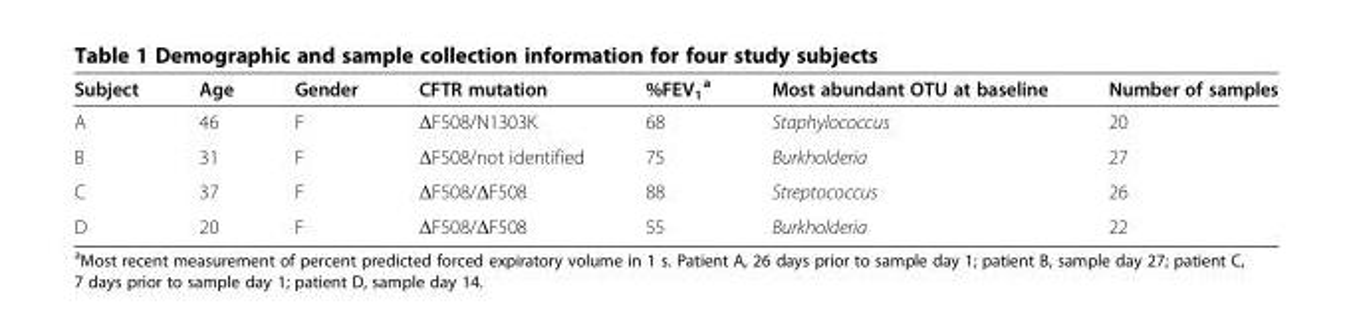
<table><thead><tr><td>Subject</td><td>Age</td><td>Gender</td><td>CFTR mutation</td><td>%FEV<sub>1</sub> <sup>a</sup></td><td>Most abundant OTU at baseline</td><td>Number of samples</td></tr></thead><tbody><tr><td>A</td><td>46</td><td>F</td><td>ΔF508/N1303K</td><td>68</td><td>Staphylococcus</td><td>20</td></tr><tr><td>B</td><td>31</td><td>F</td><td>ΔF508/not identified</td><td>75</td><td>Burkholderia</td><td>27</td></tr><tr><td>C</td><td>37</td><td>F</td><td>ΔF508/ΔF508</td><td>88</td><td>Streptococcus</td><td>26</td></tr><tr><td>D</td><td>20</td><td>F</td><td>ΔF508/ΔF508</td><td>55</td><td>Burkholderia</td><td>22</td></tr></tbody></table>